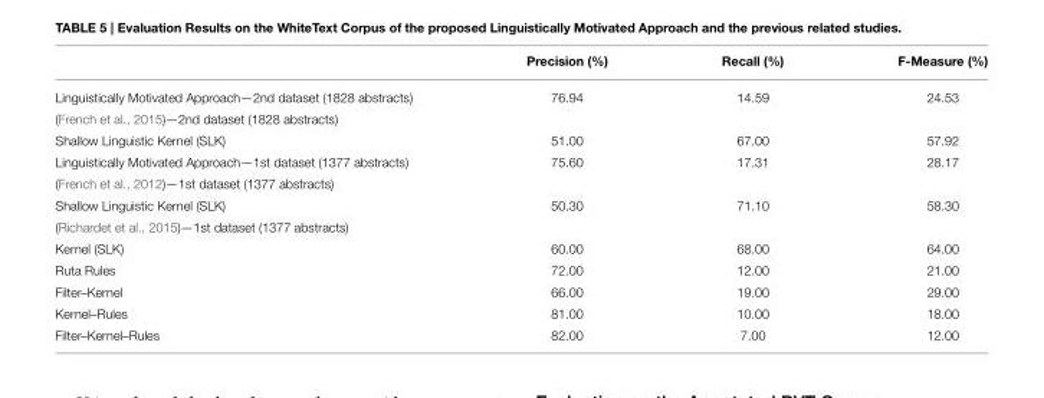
<table><thead><tr><td></td><td>Precision (%)</td><td>Recall (%)</td><td>F-Measure (%)</td></tr></thead><tbody><tr><td>Linguistically Motivated Approach—2nd dataset (1828 abstracts)</td><td>76.94</td><td>14.59</td><td>24.53</td></tr><tr><td colspan="4">(French et al., 2015)—2nd dataset (1828 abstracts)</td></tr><tr><td>Shallow Linguistic Kernel (SLK)</td><td>51.00</td><td>67.00</td><td>57.92</td></tr><tr><td>Linguistically Motivated Approach—1st dataset (1377 abstracts)</td><td>75.60</td><td>17.31</td><td>28.17</td></tr><tr><td colspan="4">(French et al., 2012)—1st dataset (1377 abstracts)</td></tr><tr><td>Shallow Linguistic Kernel (SLK)</td><td>50.30</td><td>71.10</td><td>58.30</td></tr><tr><td colspan="4">(Richardet et al., 2015)—1st dataset (1377 abstracts)</td></tr><tr><td>Kernel (SLK)</td><td>60.00</td><td>68.00</td><td>64.00</td></tr><tr><td>Ruta Rules</td><td>72.00</td><td>12.00</td><td>21.00</td></tr><tr><td>Filter–Kernel</td><td>66.00</td><td>19.00</td><td>29.00</td></tr><tr><td>Kernel–Rules</td><td>81.00</td><td>10.00</td><td>18.00</td></tr><tr><td>Filter–Kernel–Rules</td><td>82.00</td><td>7.00</td><td>12.00</td></tr></tbody></table>